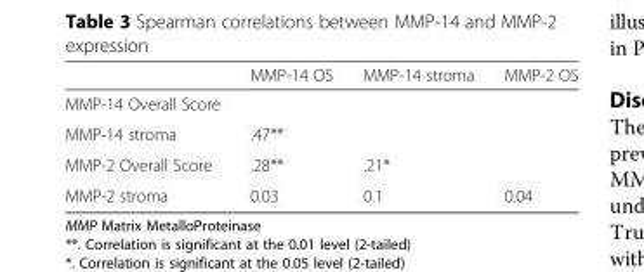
<table><thead><tr><td></td><td>MMP-14 OS</td><td>MMP-14 stroma</td><td>MMP-2 OS</td></tr></thead><tbody><tr><td colspan="4">MMP-14 Overall Score</td></tr><tr><td>MMP-14 stroma</td><td>.47**</td><td></td><td></td></tr><tr><td>MMP-2 Overall Score</td><td>.28**</td><td>.21*</td><td></td></tr><tr><td>MMP-2 stroma</td><td>0.03</td><td>0.1</td><td>0.04</td></tr></tbody></table>